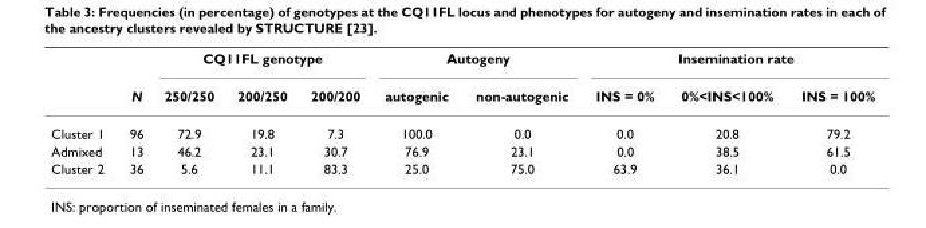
<table><thead><tr><td rowspan="2"></td><td rowspan="2">N</td><td colspan="3">CQ11FL genotype</td><td colspan="2">Autogeny</td><td colspan="3">Insemination rate</td></tr><tr><td>250/250</td><td>200/250</td><td>200/200</td><td>autogenic</td><td>non-autogenic</td><td>INS = 0%</td><td>0%&lt;INS&lt;100%</td><td>INS = 100%</td></tr></thead><tbody><tr><td>Cluster 1</td><td>96</td><td>72.9</td><td>19.8</td><td>7.3</td><td>100.0</td><td>0.0</td><td>0.0</td><td>20.8</td><td>79.2</td></tr><tr><td>Admixed</td><td>13</td><td>46.2</td><td>23.1</td><td>30.7</td><td>76.9</td><td>23.1</td><td>0.0</td><td>38.5</td><td>61.5</td></tr><tr><td>Cluster 2</td><td>36</td><td>5.6</td><td>11.1</td><td>83.3</td><td>25.0</td><td>75.0</td><td>63.9</td><td>36.1</td><td>0.0</td></tr></tbody></table>